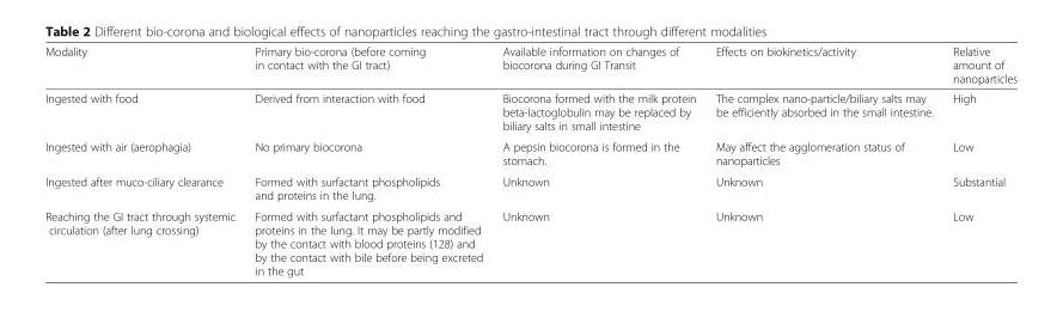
<table><thead><tr><td>Modality</td><td>Primary bio-corona (before coming in contact with the GI tract)</td><td>Available information on changes of biocorona during GI Transit</td><td>Effects on biokinetics/activity</td><td>Relative amount of nanoparticles</td></tr></thead><tbody><tr><td>Ingested with food</td><td>Derived from interaction with food</td><td>Biocorona formed with the milk protein beta-lactoglobulin may be replaced by biliary salts in small intestine</td><td>The complex nano-particle/biliary salts may be efficiently absorbed in the small intestine.</td><td>High</td></tr><tr><td>Ingested with air (aerophagia)</td><td>No primary biocorona</td><td>A pepsin biocorona is formed in the stomach.</td><td>May affect the agglomeration status of nanoparticles</td><td>Low</td></tr><tr><td>Ingested after muco-ciliary clearance</td><td>Formed with surfactant phospholipids and proteins in the lung.</td><td>Unknown</td><td>Unknown</td><td>Substantial</td></tr><tr><td>Reaching the GI tract through systemic circulation (after lung crossing)</td><td>Formed with surfactant phospholipids and proteins in the lung. It may be partly modified by the contact with blood proteins (128) and by the contact with bile before being excreted in the gut</td><td>Unknown</td><td>Unknown</td><td>Low</td></tr></tbody></table>